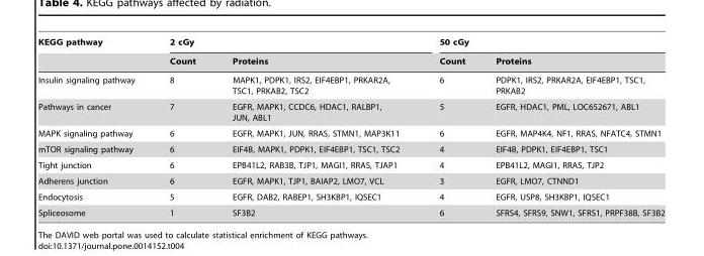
<table><thead><tr><td rowspan="2">KEGG pathway</td><td colspan="2">2 cGy</td><td colspan="2">50 cGy</td></tr><tr><td>Count</td><td>Proteins</td><td>Count</td><td>Proteins</td></tr></thead><tbody><tr><td>Insulin signaling pathway</td><td>8</td><td>MAPK1, PDPK1, IRS2, EIF4EBP1, PRKAR2A, TSC1, PRKAB2, TSC2</td><td>6</td><td>PDPK1, IRS2, PRKAR2A, EIF4EBP1, TSC1, PRKAB2</td></tr><tr><td>Pathways in cancer</td><td>7</td><td>EGFR, MAPK1, CCDC6, HDAC1, RALBP1, JUN, ABL1</td><td>5</td><td>EGFR, HDAC1, PML, LOC652671, ABL1</td></tr><tr><td>MAPK signaling pathway</td><td>6</td><td>EGFR, MAPK1, JUN, RRAS, STMN1, MAP3K11</td><td>6</td><td>EGFR, MAP4K4, NF1, RRAS, NFATC4, STMN1</td></tr><tr><td>mTOR signaling pathway</td><td>6</td><td>EIF4B, MAPK1, PDPK1, EIF4EBP1, TSC1, TSC2</td><td>4</td><td>EIF4B, PDPK1, EIF4EBP1, TSC1</td></tr><tr><td>Tight junction</td><td>6</td><td>EPB41L2, RAB3B, TJP1, MAGI1, RRAS, TJAP1</td><td>4</td><td>EPB41L2, MAGI1, RRAS, TJP2</td></tr><tr><td>Adherens junction</td><td>6</td><td>EGFR, MAPK1, TJP1, BAIAP2, LMO7, VCL</td><td>3</td><td>EGFR, LMO7, CTNND1</td></tr><tr><td>Endocytosis</td><td>5</td><td>EGFR, DAB2, RABEP1, SH3KBP1, IQSEC1</td><td>4</td><td>EGFR, USP8, SH3KBP1, IQSEC1</td></tr><tr><td>Spliceosome</td><td>1</td><td>SF3B2</td><td>6</td><td>SFRS4, SFRS9, SNW1, SFRS1, PRPF38B, SF3B2</td></tr></tbody></table>